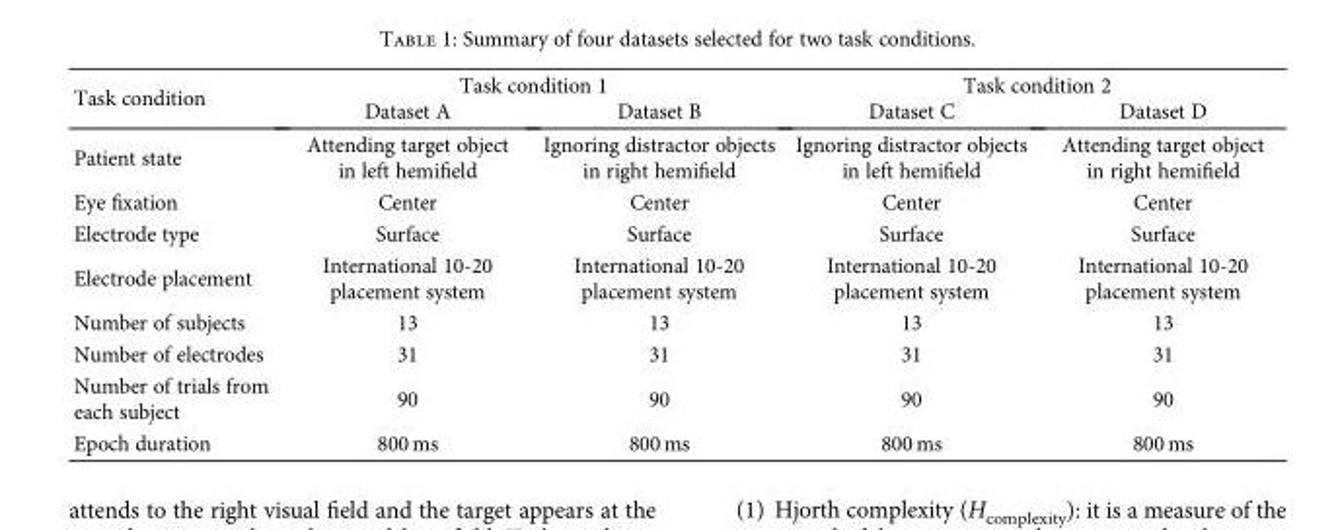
<table><thead><tr><td rowspan="2">Task condition</td><td colspan="2">Task condition 1</td><td colspan="2">Task condition 2</td></tr><tr><td>Dataset A</td><td>Dataset B</td><td>Dataset C</td><td>Dataset D</td></tr></thead><tbody><tr><td>Patient state</td><td>Attending target object in left hemifield</td><td>Ignoring distractor objects in right hemifield</td><td>Ignoring distractor objects in left hemifield</td><td>Attending target object in right hemifield</td></tr><tr><td>Eye fixation</td><td>Center</td><td>Center</td><td>Center</td><td>Center</td></tr><tr><td>Electrode type</td><td>Surface</td><td>Surface</td><td>Surface</td><td>Surface</td></tr><tr><td>Electrode placement</td><td>International 10-20 placement system</td><td>International 10-20 placement system</td><td>International 10-20 placement system</td><td>International 10-20 placement system</td></tr><tr><td>Number of subjects</td><td>13</td><td>13</td><td>13</td><td>13</td></tr><tr><td>Number of electrodes</td><td>31</td><td>31</td><td>31</td><td>31</td></tr><tr><td>Number of trials from each subject</td><td>90</td><td>90</td><td>90</td><td>90</td></tr><tr><td>Epoch duration</td><td>800 ms</td><td>800 ms</td><td>800 ms</td><td>800 ms</td></tr></tbody></table>